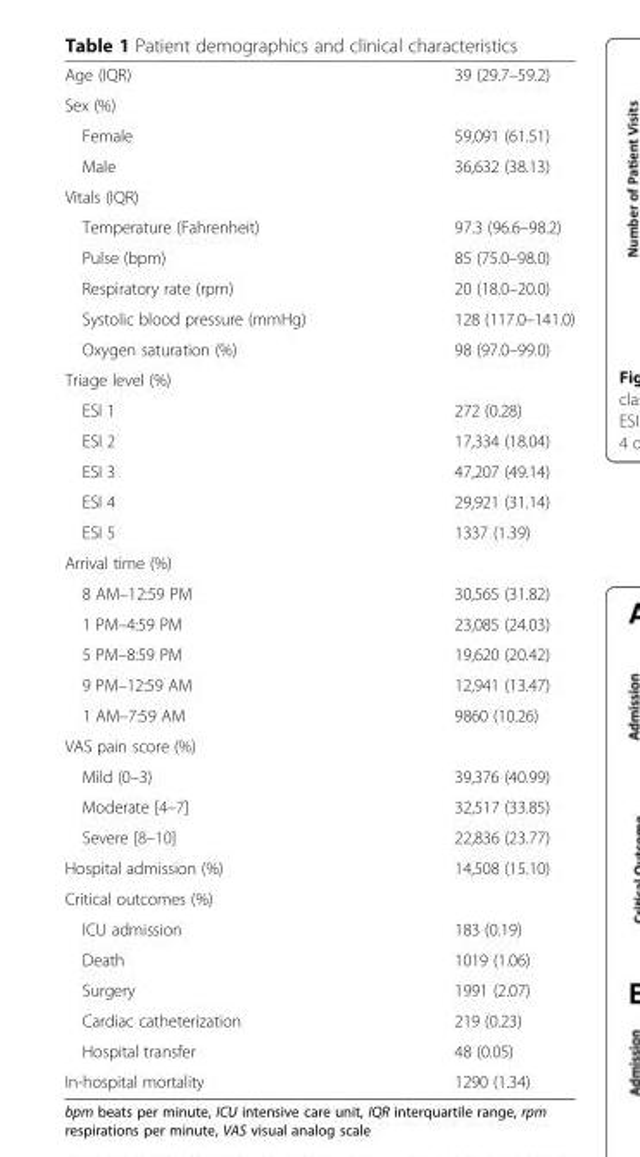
<table><tbody><tr><td>Age (IQR)</td><td>39 (29.7–59.2)</td></tr><tr><td colspan="2">Sex (%)</td></tr><tr><td>Female</td><td>59,091 (61.51)</td></tr><tr><td>Male</td><td>36,632 (38.13)</td></tr><tr><td colspan="2">Vitals (IQR)</td></tr><tr><td>Temperature (Fahrenheit)</td><td>97.3 (96.6–98.2)</td></tr><tr><td>Pulse (bpm)</td><td>85 (75.0–98.0)</td></tr><tr><td>Respiratory rate (rpm)</td><td>20 (18.0–20.0)</td></tr><tr><td>Systolic blood pressure (mmHg)</td><td>128 (117.0–141.0)</td></tr><tr><td>Oxygen saturation (%)</td><td>98 (97.0–99.0)</td></tr><tr><td colspan="2">Triage level (%)</td></tr><tr><td>ESI 1</td><td>272 (0.28)</td></tr><tr><td>ESI 2</td><td>17,334 (18.04)</td></tr><tr><td>ESI 3</td><td>47,207 (49.14)</td></tr><tr><td>ESI 4</td><td>29,921 (31.14)</td></tr><tr><td>ESI 5</td><td>1337 (1.39)</td></tr><tr><td colspan="2">Arrival time (%)</td></tr><tr><td>8 AM–12:59 PM</td><td>30,565 (31.82)</td></tr><tr><td>1 PM–4:59 PM</td><td>23,085 (24.03)</td></tr><tr><td>5 PM–8:59 PM</td><td>19,620 (20.42)</td></tr><tr><td>9 PM–12:59 AM</td><td>12,941 (13.47)</td></tr><tr><td>1 AM–7:59 AM</td><td>9860 (10.26)</td></tr><tr><td colspan="2">VAS pain score (%)</td></tr><tr><td>Mild (0–3)</td><td>39,376 (40.99)</td></tr><tr><td>Moderate [4–7]</td><td>32,517 (33.85)</td></tr><tr><td>Severe [8–10]</td><td>22,836 (23.77)</td></tr><tr><td>Hospital admission (%)</td><td>14,508 (15.10)</td></tr><tr><td colspan="2">Critical outcomes (%)</td></tr><tr><td>ICU admission</td><td>183 (0.19)</td></tr><tr><td>Death</td><td>1019 (1.06)</td></tr><tr><td>Surgery</td><td>1991 (2.07)</td></tr><tr><td>Cardiac catheterization</td><td>219 (0.23)</td></tr><tr><td>Hospital transfer</td><td>48 (0.05)</td></tr><tr><td>In-hospital mortality</td><td>1290 (1.34)</td></tr></tbody></table>